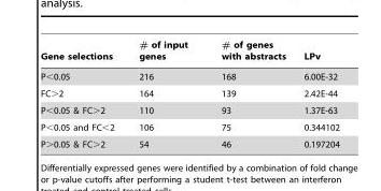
<table><thead><tr><td>Gene selections</td><td># of input genes</td><td># of genes with abstracts</td><td>LPv</td></tr></thead><tbody><tr><td>P&lt;0.05</td><td>216</td><td>168</td><td>6.00E-32</td></tr><tr><td>FC&gt;2</td><td>164</td><td>139</td><td>2.42E-44</td></tr><tr><td>P&lt;0.05 &amp; FC&gt;2</td><td>110</td><td>93</td><td>1.37E-63</td></tr><tr><td>P&lt;0.05 and FC&lt;2</td><td>106</td><td>75</td><td>0.344102</td></tr><tr><td>P&gt;0.05 &amp; FC&gt;2</td><td>54</td><td>46</td><td>0.197204</td></tr></tbody></table>